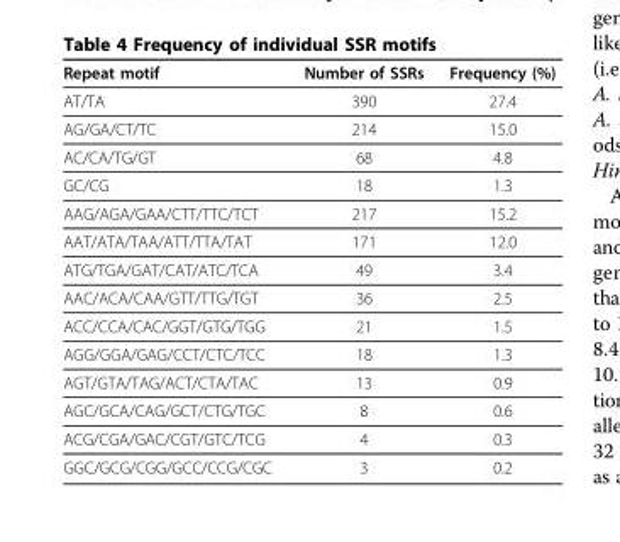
<table><thead><tr><td>Repeat motif</td><td>Number of SSRs</td><td>Frequency (%)</td></tr></thead><tbody><tr><td>AT/TA</td><td>390</td><td>27.4</td></tr><tr><td>AG/GA/CT/TC</td><td>214</td><td>15.0</td></tr><tr><td>AC/CA/TG/GT</td><td>68</td><td>4.8</td></tr><tr><td>GC/CG</td><td>18</td><td>1.3</td></tr><tr><td>AAG/AGA/GAA/CTT/TTC/TCT</td><td>217</td><td>15.2</td></tr><tr><td>AAT/ATA/TAA/ATT/TTA/TAT</td><td>171</td><td>12.0</td></tr><tr><td>ATG/TGA/GAT/CAT/ATC/TCA</td><td>49</td><td>3.4</td></tr><tr><td>AAC/ACA/CAA/GTT/TTG/TGT</td><td>36</td><td>2.5</td></tr><tr><td>ACC/CCA/CAC/GGT/GTG/TGG</td><td>21</td><td>1.5</td></tr><tr><td>AGG/GGA/GAG/CCT/CTC/TCC</td><td>18</td><td>1.3</td></tr><tr><td>AGT/GTA/TAG/ACT/CTA/TAC</td><td>13</td><td>0.9</td></tr><tr><td>AGC/GCA/CAG/GCT/CTG/TGC</td><td>8</td><td>0.6</td></tr><tr><td>ACG/CGA/GAC/CGT/GTC/TCG</td><td>4</td><td>0.3</td></tr><tr><td>GGC/GCG/CGG/GCC/CCG/CGC</td><td>3</td><td>0.2</td></tr></tbody></table>